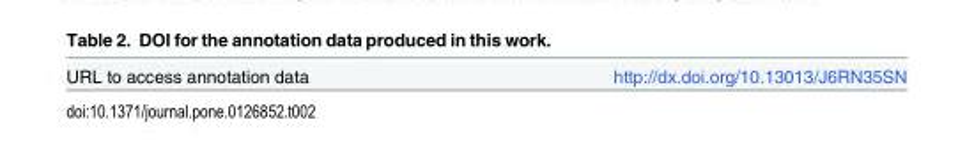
<table><tbody><tr><td>URL to access annotation data</td><td>http://dx.doi.org/10.13013/J6RN35SN</td></tr></tbody></table>